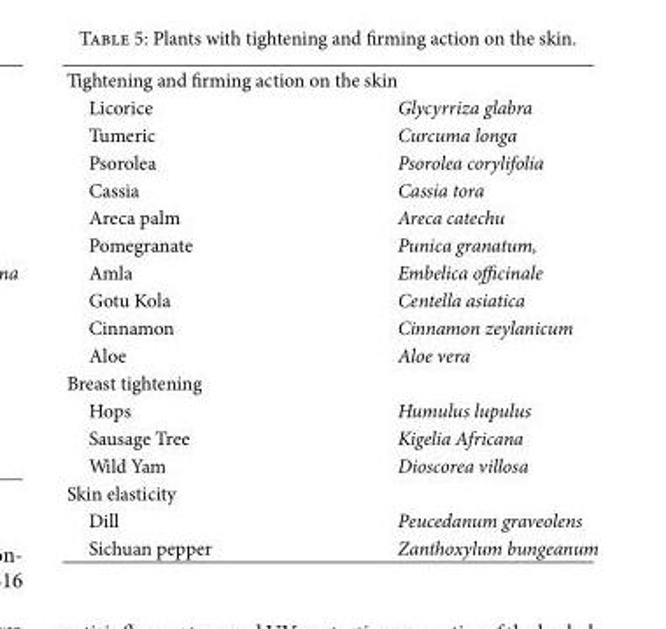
<table><tbody><tr><td colspan="2">Tightening and �rming action on the skin</td></tr><tr><td>Licorice</td><td>Glycyrriza glabra</td></tr><tr><td>Tumeric</td><td>Curcuma longa</td></tr><tr><td>Psorolea</td><td>Psorolea corylifolia</td></tr><tr><td>Cassia</td><td>Cassia tora</td></tr><tr><td>Areca palm</td><td>Areca catechu</td></tr><tr><td>Pomegranate</td><td>Punica granatum,</td></tr><tr><td>Amla</td><td>Embelica officinale</td></tr><tr><td>Gotu Kola</td><td>Centella asiatica</td></tr><tr><td>Cinnamon</td><td>Cinnamon zeylanicum</td></tr><tr><td>Aloe</td><td>Aloe vera</td></tr><tr><td colspan="2">Breast tightening</td></tr><tr><td>Hops</td><td>Humulus lupulus</td></tr><tr><td>Sausage Tree</td><td>Kigelia Africana</td></tr><tr><td>Wild Yam</td><td>Dioscorea villosa</td></tr><tr><td colspan="2">Skin elasticity</td></tr><tr><td>Dill</td><td>Peucedanum graveolens</td></tr><tr><td>Sichuan pepper</td><td>Zanthoxylum bungeanum</td></tr></tbody></table>